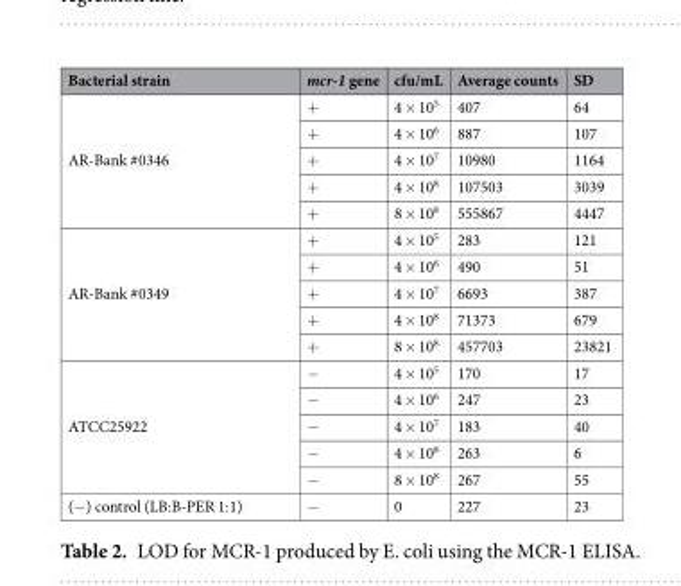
<table><thead><tr><td>Bacterial strain</td><td>mcr-1 gene</td><td>cfu/mL</td><td>Average counts</td><td>SD</td></tr></thead><tbody><tr><td rowspan="5">AR-Bank #0346</td><td>+</td><td>4 × 10<sup>5</sup></td><td>407</td><td>64</td></tr><tr><td>+</td><td>4 × 10<sup>6</sup></td><td>887</td><td>107</td></tr><tr><td>+</td><td>4 × 10<sup>7</sup></td><td>10980</td><td>1164</td></tr><tr><td>+</td><td>4 × 10<sup>8</sup></td><td>107503</td><td>3039</td></tr><tr><td>+</td><td>8 × 10<sup>8</sup></td><td>555867</td><td>4447</td></tr><tr><td rowspan="5">AR-Bank #0349</td><td>+</td><td>4 × 10<sup>5</sup></td><td>283</td><td>121</td></tr><tr><td>+</td><td>4 × 10<sup>6</sup></td><td>490</td><td>51</td></tr><tr><td>+</td><td>4 × 10<sup>7</sup></td><td>6693</td><td>387</td></tr><tr><td>+</td><td>4 × 10<sup>8</sup></td><td>71373</td><td>679</td></tr><tr><td>+</td><td>8 × 10<sup>8</sup></td><td>457703</td><td>23821</td></tr><tr><td rowspan="5">ATCC25922</td><td>−</td><td>4 × 10<sup>5</sup></td><td>170</td><td>17</td></tr><tr><td>−</td><td>4 × 10<sup>6</sup></td><td>247</td><td>23</td></tr><tr><td>−</td><td>4 × 10<sup>7</sup></td><td>183</td><td>40</td></tr><tr><td>−</td><td>4 × 10<sup>8</sup></td><td>263</td><td>6</td></tr><tr><td>−</td><td>8 × 10<sup>8</sup></td><td>267</td><td>55</td></tr><tr><td>(−) control (LB:B-PER 1:1)</td><td>−</td><td>0</td><td>227</td><td>23</td></tr></tbody></table>